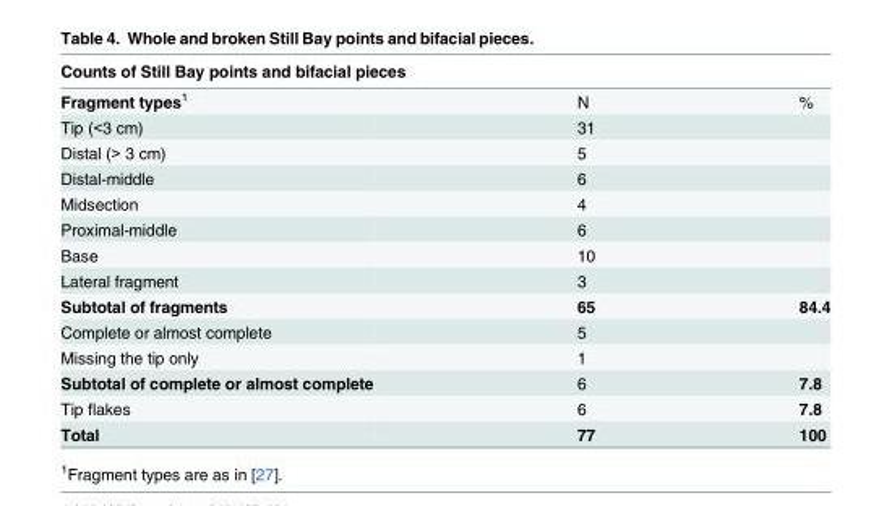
<table><thead><tr><td colspan="3">Counts of Still Bay points and bifacial pieces</td></tr><tr><td>Fragment types<sup>1</sup></td><td>N</td><td>%</td></tr></thead><tbody><tr><td>Tip (&lt;3 cm)</td><td>31</td><td></td></tr><tr><td>Distal (&gt; 3 cm)</td><td>5</td><td></td></tr><tr><td>Distal-middle</td><td>6</td><td></td></tr><tr><td>Midsection</td><td>4</td><td></td></tr><tr><td>Proximal-middle</td><td>6</td><td></td></tr><tr><td>Base</td><td>10</td><td></td></tr><tr><td>Lateral fragment</td><td>3</td><td></td></tr><tr><td>Subtotal of fragments</td><td>65</td><td>84.4</td></tr><tr><td>Complete or almost complete</td><td>5</td><td></td></tr><tr><td>Missing the tip only</td><td>1</td><td></td></tr><tr><td>Subtotal of complete or almost complete</td><td>6</td><td>7.8</td></tr><tr><td>Tip flakes</td><td>6</td><td>7.8</td></tr><tr><td>Total</td><td>77</td><td>100</td></tr></tbody></table>